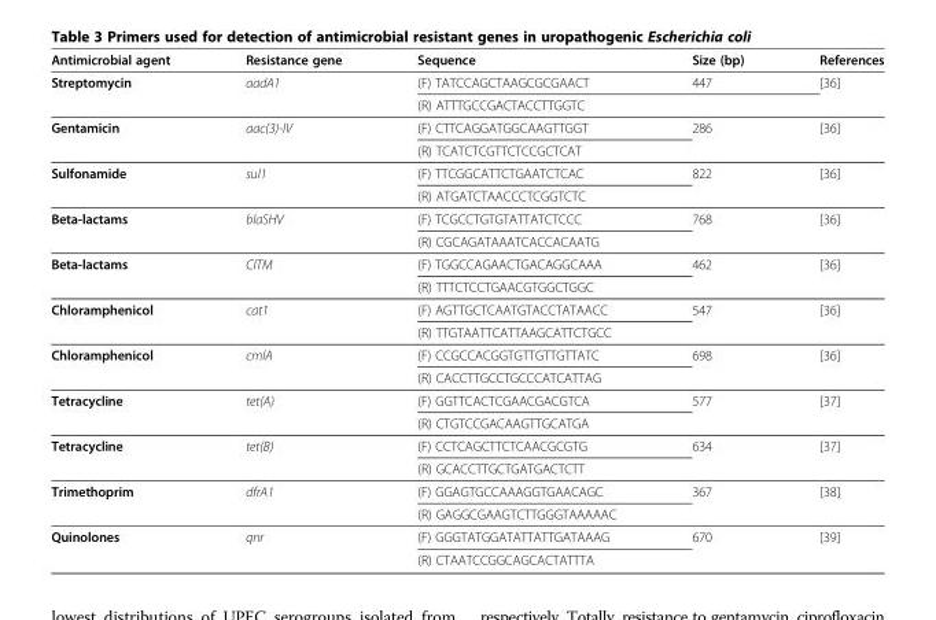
<table><thead><tr><td>Antimicrobial agent</td><td>Resistance gene</td><td>Sequence</td><td>Size (bp)</td><td>References</td></tr></thead><tbody><tr><td rowspan="2">Streptomycin</td><td>aadA1</td><td>(F) TATCCAGCTAAGCGCGAACT</td><td>447</td><td>[36]</td></tr><tr><td></td><td>(R) ATTTGCCGACTACCTTGGTC</td><td></td><td></td></tr><tr><td rowspan="2">Gentamicin</td><td>aac(3)-IV</td><td>(F) CTTCAGGATGGCAAGTTGGT</td><td>286</td><td>[36]</td></tr><tr><td></td><td>(R) TCATCTCGTTCTCCGCTCAT</td><td></td><td></td></tr><tr><td rowspan="2">Sulfonamide</td><td>sul1</td><td>(F) TTCGGCATTCTGAATCTCAC</td><td>822</td><td>[36]</td></tr><tr><td></td><td>(R) ATGATCTAACCCTCGGTCTC</td><td></td><td></td></tr><tr><td rowspan="2">Beta-lactams</td><td>blaSHV</td><td>(F) TCGCCTGTGTATTATCTCCC</td><td>768</td><td>[36]</td></tr><tr><td></td><td>(R) CGCAGATAAATCACCACAATG</td><td></td><td></td></tr><tr><td rowspan="2">Beta-lactams</td><td>CITM</td><td>(F) TGGCCAGAACTGACAGGCAAA</td><td>462</td><td>[36]</td></tr><tr><td></td><td>(R) TTTCTCCTGAACGTGGCTGGC</td><td></td><td></td></tr><tr><td rowspan="2">Chloramphenicol</td><td>cat1</td><td>(F) AGTTGCTCAATGTACCTATAACC</td><td>547</td><td>[36]</td></tr><tr><td></td><td>(R) TTGTAATTCATTAAGCATTCTGCC</td><td></td><td></td></tr><tr><td rowspan="2">Chloramphenicol</td><td>cmlA</td><td>(F) CCGCCACGGTGTTGTTGTTATC</td><td>698</td><td>[36]</td></tr><tr><td></td><td>(R) CACCTTGCCTGCCCATCATTAG</td><td></td><td></td></tr><tr><td rowspan="2">Tetracycline</td><td>tet(A)</td><td>(F) GGTTCACTCGAACGACGTCA</td><td>577</td><td>[37]</td></tr><tr><td></td><td>(R) CTGTCCGACAAGTTGCATGA</td><td></td><td></td></tr><tr><td rowspan="2">Tetracycline</td><td>tet(B)</td><td>(F) CCTCAGCTTCTCAACGCGTG</td><td>634</td><td>[37]</td></tr><tr><td></td><td>(R) GCACCTTGCTGATGACTCTT</td><td></td><td></td></tr><tr><td rowspan="2">Trimethoprim</td><td>dfrA1</td><td>(F) GGAGTGCCAAAGGTGAACAGC</td><td>367</td><td>[38]</td></tr><tr><td></td><td>(R) GAGGCGAAGTCTTGGGTAAAAAC</td><td></td><td></td></tr><tr><td rowspan="2">Quinolones</td><td>qnr</td><td>(F) GGGTATGGATATTATTGATAAAG</td><td>670</td><td>[39]</td></tr><tr><td></td><td>(R) CTAATCCGGCAGCACTATTTA</td><td></td><td></td></tr></tbody></table>